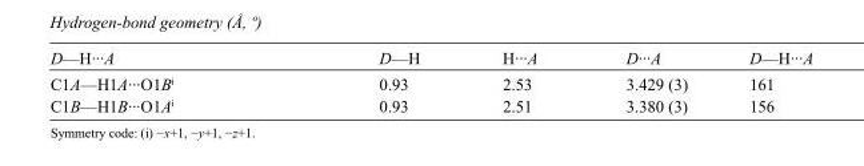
<table><tbody><tr><td>D—H···A</td><td>D—H</td><td>H···A</td><td>D···A</td><td>D—H···A</td></tr><tr><td>C1A—H1A···O1B<sup>i</sup></td><td>0.93</td><td>2.53</td><td>3.429 (3)</td><td>161</td></tr><tr><td>C1B—H1B···O1A<sup>i</sup></td><td>0.93</td><td>2.51</td><td>3.380 (3)</td><td>156</td></tr></tbody></table>